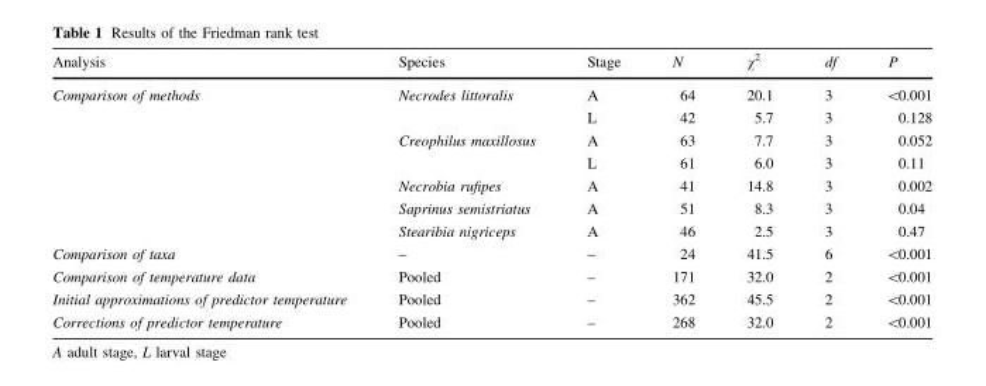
<table><thead><tr><td>Analysis</td><td>Species</td><td>Stage</td><td>N</td><td>χ<sup>2</sup></td><td>df</td><td>P</td></tr></thead><tbody><tr><td rowspan="7">Comparison of methods</td><td rowspan="2">Necrodes littoralis</td><td>A</td><td>64</td><td>20.1</td><td>3</td><td>&lt;0.001</td></tr><tr><td>L</td><td>42</td><td>5.7</td><td>3</td><td>0.128</td></tr><tr><td rowspan="2">Creophilus maxillosus</td><td>A</td><td>63</td><td>7.7</td><td>3</td><td>0.052</td></tr><tr><td>L</td><td>61</td><td>6.0</td><td>3</td><td>0.11</td></tr><tr><td>Necrobia rufipes</td><td>A</td><td>41</td><td>14.8</td><td>3</td><td>0.002</td></tr><tr><td>Saprinus semistriatus</td><td>A</td><td>51</td><td>8.3</td><td>3</td><td>0.04</td></tr><tr><td>Stearibia nigriceps</td><td>A</td><td>46</td><td>2.5</td><td>3</td><td>0.47</td></tr><tr><td>Comparison of taxa</td><td>–</td><td>–</td><td>24</td><td>41.5</td><td>6</td><td>&lt;0.001</td></tr><tr><td>Comparison of temperature data</td><td>Pooled</td><td>–</td><td>171</td><td>32.0</td><td>2</td><td>&lt;0.001</td></tr><tr><td>Initial approximations of predictor temperature</td><td>Pooled</td><td>–</td><td>362</td><td>45.5</td><td>2</td><td>&lt;0.001</td></tr><tr><td>Corrections of predictor temperature</td><td>Pooled</td><td>–</td><td>268</td><td>32.0</td><td>2</td><td>&lt;0.001</td></tr></tbody></table>